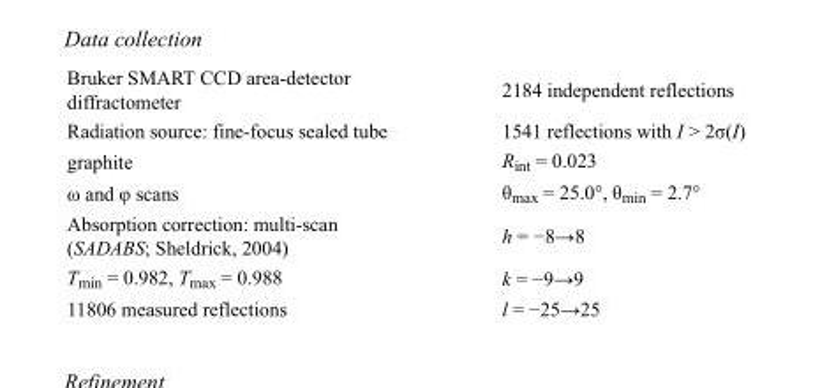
<table><tbody><tr><td>Bruker SMART CCD area-detector diffractometer</td><td>2184 independent reflections</td></tr><tr><td>Radiation source: fine-focus sealed tube</td><td>1541 reflections with I &gt; 2σ(I)</td></tr><tr><td>graphite</td><td>R<sub>int</sub> = 0.023</td></tr><tr><td>ω and φ scans</td><td>θ<sub>max</sub> = 25.0°, θ<sub>min</sub> = 2.7°</td></tr><tr><td>Absorption correction: multi-scan (SADABS; Sheldrick, 2004)</td><td>h = −8→8</td></tr><tr><td>T<sub>min</sub> = 0.982, T<sub>max</sub> = 0.988</td><td>k = −9→9</td></tr><tr><td>11806 measured reflections</td><td>l = −25→25</td></tr></tbody></table>